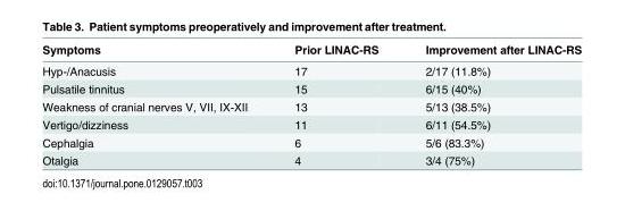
<table><thead><tr><td>Symptoms</td><td>Prior LINAC-RS</td><td>Improvement after LINAC-RS</td></tr></thead><tbody><tr><td>Hyp-/Anacusis</td><td>17</td><td>2/17 (11.8%)</td></tr><tr><td>Pulsatile tinnitus</td><td>15</td><td>6/15 (40%)</td></tr><tr><td>Weakness of cranial nerves V, VII, IX-XII</td><td>13</td><td>5/13 (38.5%)</td></tr><tr><td>Vertigo/dizziness</td><td>11</td><td>6/11 (54.5%)</td></tr><tr><td>Cephalgia</td><td>6</td><td>5/6 (83.3%)</td></tr><tr><td>Otalgia</td><td>4</td><td>3/4 (75%)</td></tr></tbody></table>